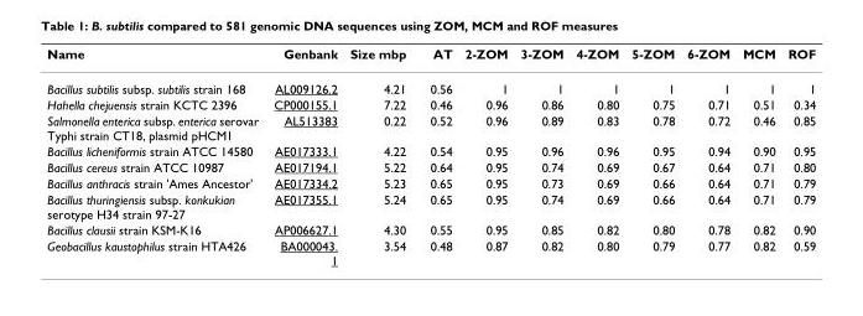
<table><thead><tr><td>Name</td><td>Genbank</td><td>Size mbp</td><td>AT</td><td>2-ZOM</td><td>3-ZOM</td><td>4-ZOM</td><td>5-ZOM</td><td>6-ZOM</td><td>MCM</td><td>ROF</td></tr></thead><tbody><tr><td>Bacillus subtilis subsp. subtilis strain 168</td><td>AL009126.2</td><td>4.21</td><td>0.56</td><td>1</td><td>1</td><td>1</td><td>1</td><td>1</td><td>1</td><td>1</td></tr><tr><td>Hahella chejuensis strain KCTC 2396</td><td>CP000155.1</td><td>7.22</td><td>0.46</td><td>0.96</td><td>0.86</td><td>0.80</td><td>0.75</td><td>0.71</td><td>0.51</td><td>0.34</td></tr><tr><td>Salmonella enterica subsp. enterica serovar Typhi strain CT18, plasmid pHCM1</td><td>AL513383</td><td>0.22</td><td>0.52</td><td>0.96</td><td>0.89</td><td>0.83</td><td>0.78</td><td>0.72</td><td>0.46</td><td>0.85</td></tr><tr><td>Bacillus licheniformis strain ATCC 14580</td><td>AE017333.1</td><td>4.22</td><td>0.54</td><td>0.95</td><td>0.96</td><td>0.96</td><td>0.95</td><td>0.94</td><td>0.90</td><td>0.95</td></tr><tr><td>Bacillus cereus strain ATCC 10987</td><td>AE017194.1</td><td>5.22</td><td>0.64</td><td>0.95</td><td>0.74</td><td>0.69</td><td>0.67</td><td>0.64</td><td>0.71</td><td>0.80</td></tr><tr><td>Bacillus anthracis strain &#x27;Ames Ancestor&#x27;</td><td>AE017334.2</td><td>5.23</td><td>0.65</td><td>0.95</td><td>0.73</td><td>0.69</td><td>0.66</td><td>0.64</td><td>0.71</td><td>0.79</td></tr><tr><td>Bacillus thuringiensis subsp. konkukian serotype H34 strain 97-27</td><td>AE017355.1</td><td>5.24</td><td>0.65</td><td>0.95</td><td>0.74</td><td>0.69</td><td>0.66</td><td>0.64</td><td>0.71</td><td>0.79</td></tr><tr><td>Bacillus clausii strain KSM-K16</td><td>AP006627.1</td><td>4.30</td><td>0.55</td><td>0.95</td><td>0.85</td><td>0.82</td><td>0.80</td><td>0.78</td><td>0.82</td><td>0.90</td></tr><tr><td>Geobacillus kaustophilus strain HTA426</td><td>BA000043. 1</td><td>3.54</td><td>0.48</td><td>0.87</td><td>0.82</td><td>0.80</td><td>0.79</td><td>0.77</td><td>0.82</td><td>0.59</td></tr></tbody></table>